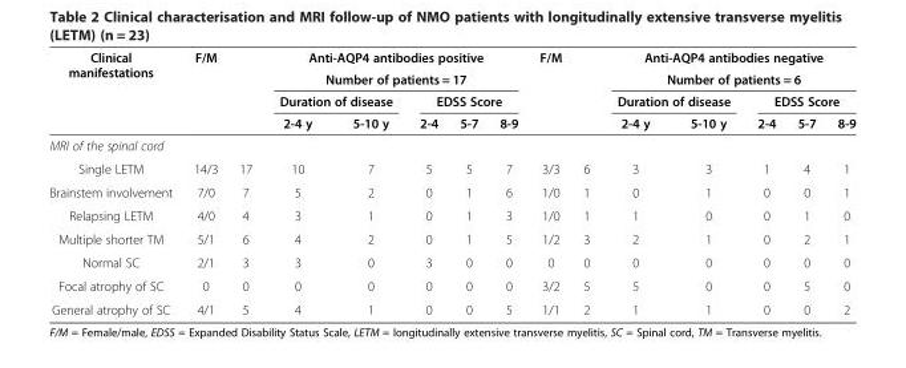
<table><thead><tr><td rowspan="4">Clinical manifestations</td><td rowspan="4">F/M</td><td rowspan="4"></td><td rowspan="2" colspan="5">Anti-AQP4 antibodies positive Number of patients = 17</td><td rowspan="4">F/M</td><td rowspan="4"></td><td rowspan="2" colspan="5">Anti-AQP4 antibodies negative Number of patients = 6</td></tr><tr></tr><tr><td colspan="2">Duration of disease</td><td colspan="3">EDSS Score</td><td colspan="2">Duration of disease</td><td colspan="3">EDSS Score</td></tr><tr><td>2-4 y</td><td>5-10 y</td><td>2-4</td><td>5-7</td><td>8-9</td><td>2-4 y</td><td>5-10 y</td><td>2-4</td><td>5-7</td><td>8-9</td></tr></thead><tbody><tr><td colspan="15">MRI of the spinal cord</td></tr><tr><td>Single LETM</td><td>14/3</td><td>17</td><td>10</td><td>7</td><td>5</td><td>5</td><td>7</td><td>3/3</td><td>6</td><td>3</td><td>3</td><td>1</td><td>4</td><td>1</td></tr><tr><td>Brainstem involvement</td><td>7/0</td><td>7</td><td>5</td><td>2</td><td>0</td><td>1</td><td>6</td><td>1/0</td><td>1</td><td>0</td><td>1</td><td>0</td><td>0</td><td>1</td></tr><tr><td>Relapsing LETM</td><td>4/0</td><td>4</td><td>3</td><td>1</td><td>0</td><td>1</td><td>3</td><td>1/0</td><td>1</td><td>1</td><td>0</td><td>0</td><td>1</td><td>0</td></tr><tr><td>Multiple shorter TM</td><td>5/1</td><td>6</td><td>4</td><td>2</td><td>0</td><td>1</td><td>5</td><td>1/2</td><td>3</td><td>2</td><td>1</td><td>0</td><td>2</td><td>1</td></tr><tr><td>Normal SC</td><td>2/1</td><td>3</td><td>3</td><td>0</td><td>3</td><td>0</td><td>0</td><td>0</td><td>0</td><td>0</td><td>0</td><td>0</td><td>0</td><td>0</td></tr><tr><td>Focal atrophy of SC</td><td>0</td><td>0</td><td>0</td><td>0</td><td>0</td><td>0</td><td>0</td><td>3/2</td><td>5</td><td>5</td><td>0</td><td>0</td><td>5</td><td>0</td></tr><tr><td>General atrophy of SC</td><td>4/1</td><td>5</td><td>4</td><td>1</td><td>0</td><td>0</td><td>5</td><td>1/1</td><td>2</td><td>1</td><td>1</td><td>0</td><td>0</td><td>2</td></tr></tbody></table>